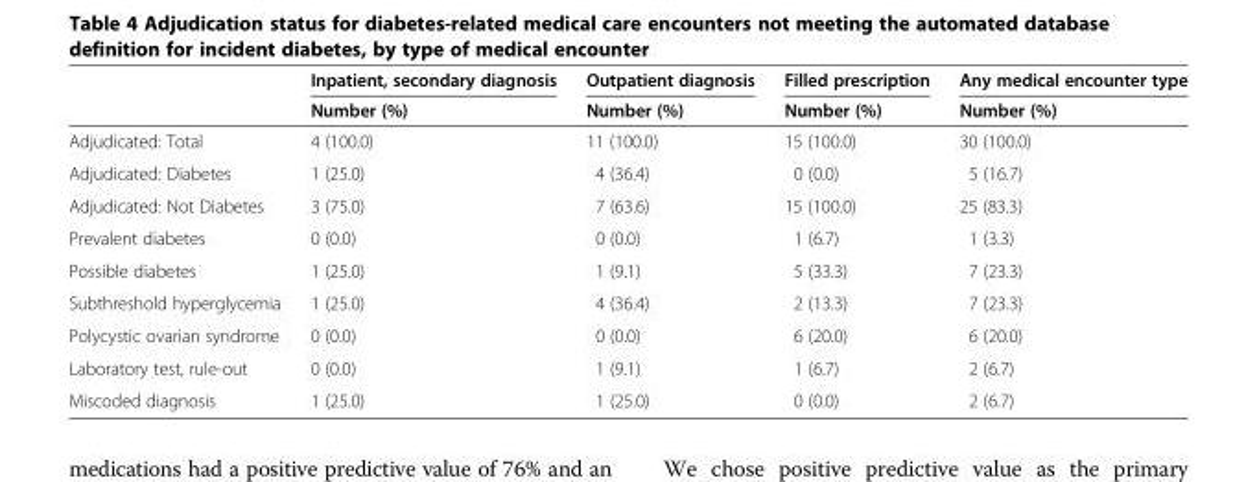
<table><thead><tr><td rowspan="2"></td><td rowspan="2">Inpatient, secondary diagnosis Number (%)</td><td rowspan="2">Outpatient diagnosis Number (%)</td><td rowspan="2">Filled prescription Number (%)</td><td rowspan="2">Any medical encounter type Number (%)</td></tr><tr></tr></thead><tbody><tr><td>Adjudicated: Total</td><td>4 (100.0)</td><td>11 (100.0)</td><td>15 (100.0)</td><td>30 (100.0)</td></tr><tr><td>Adjudicated: Diabetes</td><td>1 (25.0)</td><td>4 (36.4)</td><td>0 (0.0)</td><td>5 (16.7)</td></tr><tr><td>Adjudicated: Not Diabetes</td><td>3 (75.0)</td><td>7 (63.6)</td><td>15 (100.0)</td><td>25 (83.3)</td></tr><tr><td>Prevalent diabetes</td><td>0 (0.0)</td><td>0 (0.0)</td><td>1 (6.7)</td><td>1 (3.3)</td></tr><tr><td>Possible diabetes</td><td>1 (25.0)</td><td>1 (9.1)</td><td>5 (33.3)</td><td>7 (23.3)</td></tr><tr><td>Subthreshold hyperglycemia</td><td>1 (25.0)</td><td>4 (36.4)</td><td>2 (13.3)</td><td>7 (23.3)</td></tr><tr><td>Polycystic ovarian syndrome</td><td>0 (0.0)</td><td>0 (0.0)</td><td>6 (20.0)</td><td>6 (20.0)</td></tr><tr><td>Laboratory test, rule-out</td><td>0 (0.0)</td><td>1 (9.1)</td><td>1 (6.7)</td><td>2 (6.7)</td></tr><tr><td>Miscoded diagnosis</td><td>1 (25.0)</td><td>1 (25.0)</td><td>0 (0.0)</td><td>2 (6.7)</td></tr></tbody></table>